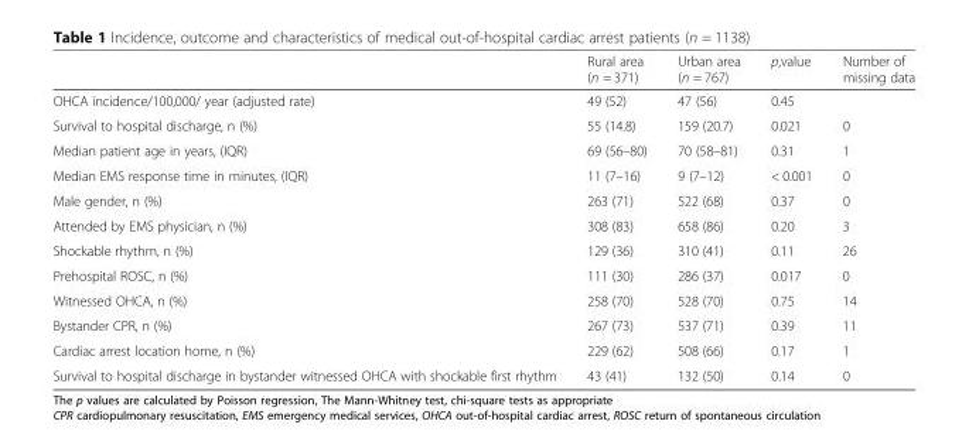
<table><thead><tr><td></td><td>Rural area (n = 371)</td><td>Urban area (n = 767)</td><td>p,value</td><td>Number of missing data</td></tr></thead><tbody><tr><td>OHCA incidence/100,000/ year (adjusted rate)</td><td>49 (52)</td><td>47 (56)</td><td>0.45</td><td></td></tr><tr><td>Survival to hospital discharge, n (%)</td><td>55 (14.8)</td><td>159 (20.7)</td><td>0.021</td><td>0</td></tr><tr><td>Median patient age in years, (IQR)</td><td>69 (56–80)</td><td>70 (58–81)</td><td>0.31</td><td>1</td></tr><tr><td>Median EMS response time in minutes, (IQR)</td><td>11 (7–16)</td><td>9 (7–12)</td><td>&lt; 0.001</td><td>0</td></tr><tr><td>Male gender, n (%)</td><td>263 (71)</td><td>522 (68)</td><td>0.37</td><td>0</td></tr><tr><td>Attended by EMS physician, n (%)</td><td>308 (83)</td><td>658 (86)</td><td>0.20</td><td>3</td></tr><tr><td>Shockable rhythm, n (%)</td><td>129 (36)</td><td>310 (41)</td><td>0.11</td><td>26</td></tr><tr><td>Prehospital ROSC, n (%)</td><td>111 (30)</td><td>286 (37)</td><td>0.017</td><td>0</td></tr><tr><td>Witnessed OHCA, n (%)</td><td>258 (70)</td><td>528 (70)</td><td>0.75</td><td>14</td></tr><tr><td>Bystander CPR, n (%)</td><td>267 (73)</td><td>537 (71)</td><td>0.39</td><td>11</td></tr><tr><td>Cardiac arrest location home, n (%)</td><td>229 (62)</td><td>508 (66)</td><td>0.17</td><td>1</td></tr><tr><td>Survival to hospital discharge in bystander witnessed OHCA with shockable first rhythm</td><td>43 (41)</td><td>132 (50)</td><td>0.14</td><td>0</td></tr></tbody></table>